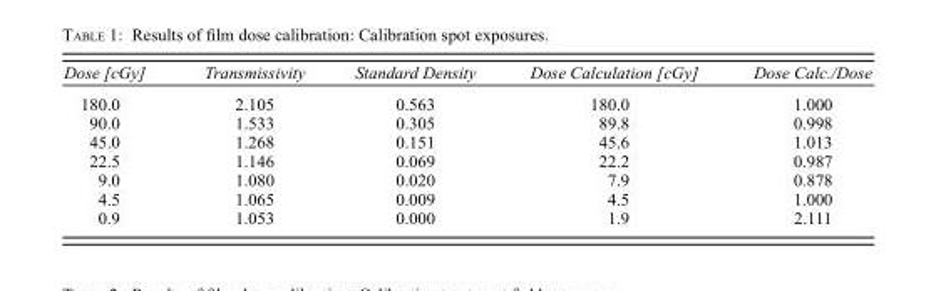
<table><thead><tr><td>Dose [cGy]</td><td>Transmissivity</td><td>Standard Density</td><td>Dose Calculation [cGy]</td><td>Dose Calc./Dose</td></tr></thead><tbody><tr><td>180.0</td><td>2.105</td><td>0.563</td><td>180.0</td><td>1.000</td></tr><tr><td>90.0</td><td>1.533</td><td>0.305</td><td>89.8</td><td>0.998</td></tr><tr><td>45.0</td><td>1.268</td><td>0.151</td><td>45.6</td><td>1.013</td></tr><tr><td>22.5</td><td>1.146</td><td>0.069</td><td>22.2</td><td>0.987</td></tr><tr><td>9.0</td><td>1.080</td><td>0.020</td><td>7.9</td><td>0.878</td></tr><tr><td>4.5</td><td>1.065</td><td>0.009</td><td>4.5</td><td>1.000</td></tr><tr><td>0.9</td><td>1.053</td><td>0.000</td><td>1.9</td><td>2.111</td></tr></tbody></table>